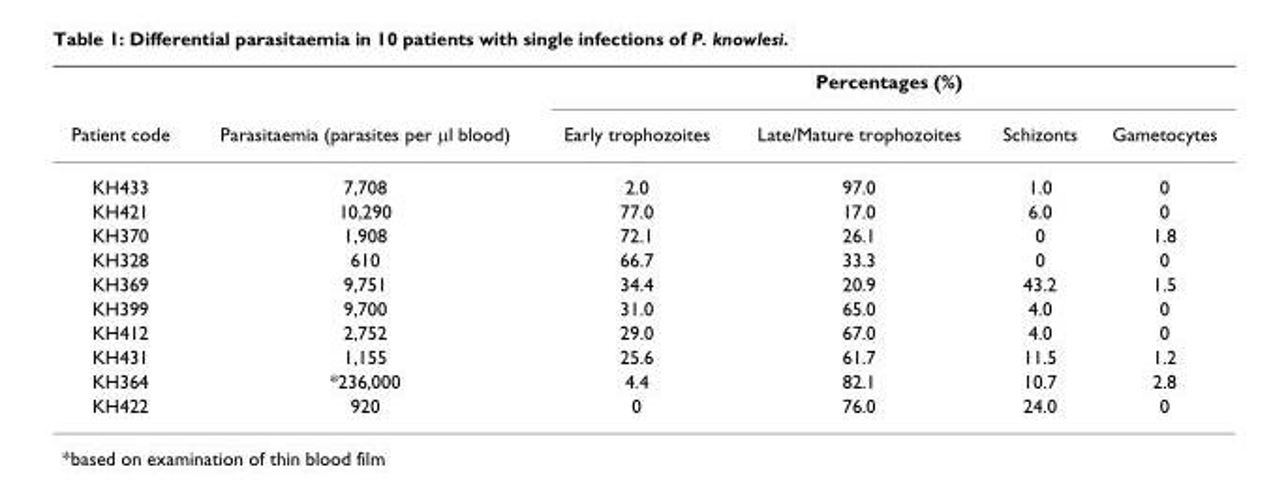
<table><thead><tr><td rowspan="2">Patient code</td><td rowspan="2">Parasitaemia (parasites per μl blood)</td><td colspan="4">Percentages (%)</td></tr><tr><td>Early trophozoites</td><td>Late/Mature trophozoites</td><td>Schizonts</td><td>Gametocytes</td></tr></thead><tbody><tr><td>KH433</td><td>7,708</td><td>2.0</td><td>97.0</td><td>1.0</td><td>0</td></tr><tr><td>KH421</td><td>10,290</td><td>77.0</td><td>17.0</td><td>6.0</td><td>0</td></tr><tr><td>KH370</td><td>1,908</td><td>72.1</td><td>26.1</td><td>0</td><td>1.8</td></tr><tr><td>KH328</td><td>610</td><td>66.7</td><td>33.3</td><td>0</td><td>0</td></tr><tr><td>KH369</td><td>9,751</td><td>34.4</td><td>20.9</td><td>43.2</td><td>1.5</td></tr><tr><td>KH399</td><td>9,700</td><td>31.0</td><td>65.0</td><td>4.0</td><td>0</td></tr><tr><td>KH412</td><td>2,752</td><td>29.0</td><td>67.0</td><td>4.0</td><td>0</td></tr><tr><td>KH431</td><td>1,155</td><td>25.6</td><td>61.7</td><td>11.5</td><td>1.2</td></tr><tr><td>KH364</td><td>*236,000</td><td>4.4</td><td>82.1</td><td>10.7</td><td>2.8</td></tr><tr><td>KH422</td><td>920</td><td>0</td><td>76.0</td><td>24.0</td><td>0</td></tr></tbody></table>